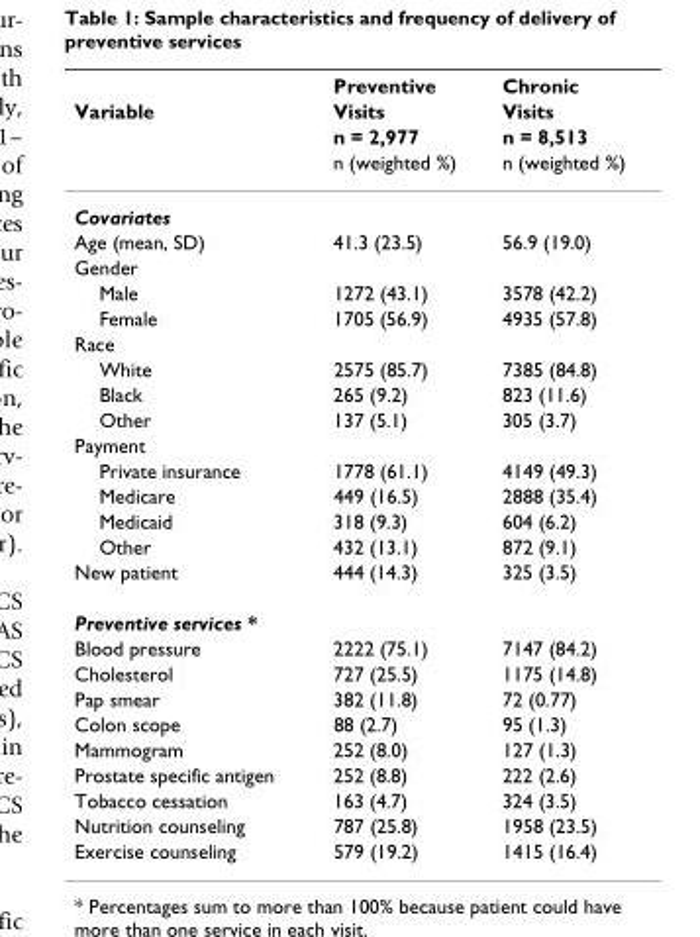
<table><thead><tr><td rowspan="4">Variable</td><td rowspan="4">Preventive Visits n = 2,977 n (weighted %)</td><td rowspan="4">Chronic Visits n = 8,513 n (weighted %)</td></tr><tr></tr><tr></tr><tr></tr></thead><tbody><tr><td colspan="3">Covariates</td></tr><tr><td>Age (mean, SD)</td><td>41.3 (23.5)</td><td>56.9 (19.0)</td></tr><tr><td colspan="3">Gender</td></tr><tr><td>Male</td><td>1272 (43.1)</td><td>3578 (42.2)</td></tr><tr><td>Female</td><td>1705 (56.9)</td><td>4935 (57.8)</td></tr><tr><td colspan="3">Race</td></tr><tr><td>White</td><td>2575 (85.7)</td><td>7385 (84.8)</td></tr><tr><td>Black</td><td>265 (9.2)</td><td>823 (11.6)</td></tr><tr><td>Other</td><td>137 (5.1)</td><td>305 (3.7)</td></tr><tr><td colspan="3">Payment</td></tr><tr><td>Private insurance</td><td>1778 (61.1)</td><td>4149 (49.3)</td></tr><tr><td>Medicare</td><td>449 (16.5)</td><td>2888 (35.4)</td></tr><tr><td>Medicaid</td><td>318 (9.3)</td><td>604 (6.2)</td></tr><tr><td>Other</td><td>432 (13.1)</td><td>872 (9.1)</td></tr><tr><td>New patient</td><td>444 (14.3)</td><td>325 (3.5)</td></tr><tr><td colspan="3">Preventive services *</td></tr><tr><td>Blood pressure</td><td>2222 (75.1)</td><td>7147 (84.2)</td></tr><tr><td>Cholesterol</td><td>727 (25.5)</td><td>1175 (14.8)</td></tr><tr><td>Pap smear</td><td>382 (11.8)</td><td>72 (0.77)</td></tr><tr><td>Colon scope</td><td>88 (2.7)</td><td>95 (1.3)</td></tr><tr><td>Mammogram</td><td>252 (8.0)</td><td>127 (1.3)</td></tr><tr><td>Prostate specific antigen</td><td>252 (8.8)</td><td>222 (2.6)</td></tr><tr><td>Tobacco cessation</td><td>163 (4.7)</td><td>324 (3.5)</td></tr><tr><td>Nutrition counseling</td><td>787 (25.8)</td><td>1958 (23.5)</td></tr><tr><td>Exercise counseling</td><td>579 (19.2)</td><td>1415 (16.4)</td></tr></tbody></table>